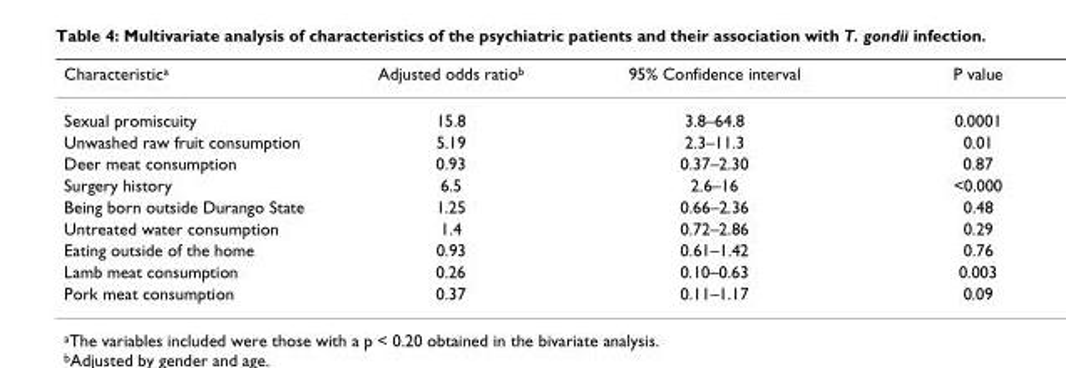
<table><thead><tr><td>Characteristic<sup>a</sup></td><td>Adjusted odds ratio<sup>b</sup></td><td>95% Confidence interval</td><td>P value</td></tr></thead><tbody><tr><td>Sexual promiscuity</td><td>15.8</td><td>3.8–64.8</td><td>0.0001</td></tr><tr><td>Unwashed raw fruit consumption</td><td>5.19</td><td>2.3–11.3</td><td>0.01</td></tr><tr><td>Deer meat consumption</td><td>0.93</td><td>0.37–2.30</td><td>0.87</td></tr><tr><td>Surgery history</td><td>6.5</td><td>2.6–16</td><td>&lt;0.000</td></tr><tr><td>Being born outside Durango State</td><td>1.25</td><td>0.66–2.36</td><td>0.48</td></tr><tr><td>Untreated water consumption</td><td>1.4</td><td>0.72–2.86</td><td>0.29</td></tr><tr><td>Eating outside of the home</td><td>0.93</td><td>0.61–1.42</td><td>0.76</td></tr><tr><td>Lamb meat consumption</td><td>0.26</td><td>0.10–0.63</td><td>0.003</td></tr><tr><td>Pork meat consumption</td><td>0.37</td><td>0.11–1.17</td><td>0.09</td></tr></tbody></table>